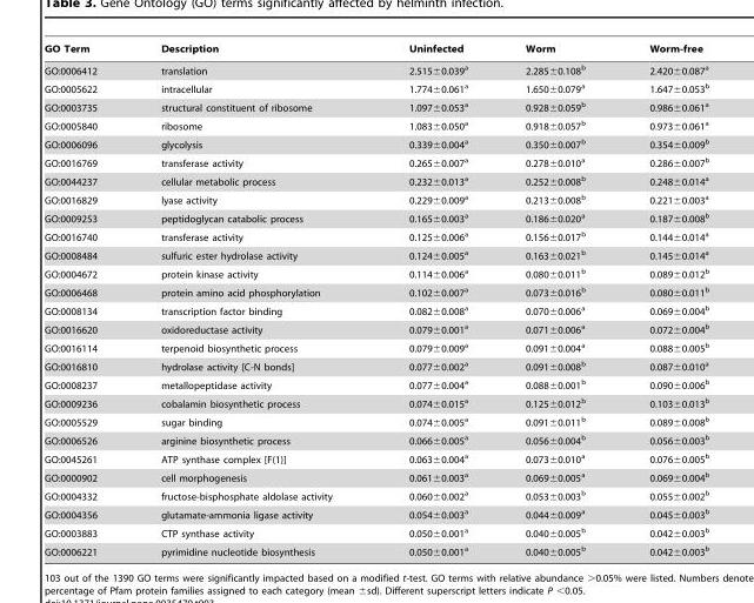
<table><thead><tr><td>GO Term</td><td>Description</td><td>Uninfected</td><td>Worm</td><td>Worm-free</td></tr></thead><tbody><tr><td>GO:0006412</td><td>translation</td><td>2.515±0.039<sup>a</sup></td><td>2.285±0.108<sup>b</sup></td><td>2.420±0.087<sup>a</sup></td></tr><tr><td>GO:0005622</td><td>intracellular</td><td>1.774±0.061<sup>a</sup></td><td>1.650±0.079<sup>a</sup></td><td>1.647±0.053<sup>b</sup></td></tr><tr><td>GO:0003735</td><td>structural constituent of ribosome</td><td>1.097±0.053<sup>a</sup></td><td>0.928±0.059<sup>b</sup></td><td>0.986±0.061<sup>a</sup></td></tr><tr><td>GO:0005840</td><td>ribosome</td><td>1.083±0.050<sup>a</sup></td><td>0.918±0.057<sup>b</sup></td><td>0.973±0.061<sup>a</sup></td></tr><tr><td>GO:0006096</td><td>glycolysis</td><td>0.339±0.004<sup>a</sup></td><td>0.350±0.007<sup>b</sup></td><td>0.354±0.009<sup>b</sup></td></tr><tr><td>GO:0016769</td><td>transferase activity</td><td>0.265±0.007<sup>a</sup></td><td>0.278±0.010<sup>a</sup></td><td>0.286±0.007<sup>b</sup></td></tr><tr><td>GO:0044237</td><td>cellular metabolic process</td><td>0.232±0.013<sup>a</sup></td><td>0.252±0.008<sup>b</sup></td><td>0.248±0.014<sup>a</sup></td></tr><tr><td>GO:0016829</td><td>lyase activity</td><td>0.229±0.009<sup>a</sup></td><td>0.213±0.008<sup>b</sup></td><td>0.221±0.003<sup>a</sup></td></tr><tr><td>GO:0009253</td><td>peptidoglycan catabolic process</td><td>0.165±0.003<sup>a</sup></td><td>0.186±0.020<sup>a</sup></td><td>0.187±0.008<sup>b</sup></td></tr><tr><td>GO:0016740</td><td>transferase activity</td><td>0.125±0.006<sup>a</sup></td><td>0.156±0.017<sup>b</sup></td><td>0.144±0.014<sup>a</sup></td></tr><tr><td>GO:0008484</td><td>sulfuric ester hydrolase activity</td><td>0.124±0.005<sup>a</sup></td><td>0.163±0.021<sup>b</sup></td><td>0.145±0.014<sup>a</sup></td></tr><tr><td>GO:0004672</td><td>protein kinase activity</td><td>0.114±0.006<sup>a</sup></td><td>0.080±0.011<sup>b</sup></td><td>0.089±0.012<sup>b</sup></td></tr><tr><td>GO:0006468</td><td>protein amino acid phosphorylation</td><td>0.102±0.007<sup>a</sup></td><td>0.073±0.016<sup>b</sup></td><td>0.080±0.011<sup>b</sup></td></tr><tr><td>GO:0008134</td><td>transcription factor binding</td><td>0.082±0.008<sup>a</sup></td><td>0.070±0.006<sup>a</sup></td><td>0.069±0.004<sup>b</sup></td></tr><tr><td>GO:0016620</td><td>oxidoreductase activity</td><td>0.079±0.001<sup>a</sup></td><td>0.071±0.006<sup>a</sup></td><td>0.072±0.004<sup>b</sup></td></tr><tr><td>GO:0016114</td><td>terpenoid biosynthetic process</td><td>0.079±0.009<sup>a</sup></td><td>0.091±0.004<sup>a</sup></td><td>0.088±0.005<sup>b</sup></td></tr><tr><td>GO:0016810</td><td>hydrolase activity [C-N bonds]</td><td>0.077±0.002<sup>a</sup></td><td>0.091±0.008<sup>b</sup></td><td>0.087±0.010<sup>a</sup></td></tr><tr><td>GO:0008237</td><td>metallopeptidase activity</td><td>0.077±0.004<sup>a</sup></td><td>0.088±0.001<sup>b</sup></td><td>0.090±0.006<sup>b</sup></td></tr><tr><td>GO:0009236</td><td>cobalamin biosynthetic process</td><td>0.074±0.015<sup>a</sup></td><td>0.125±0.012<sup>b</sup></td><td>0.103±0.013<sup>b</sup></td></tr><tr><td>GO:0005529</td><td>sugar binding</td><td>0.074±0.005<sup>a</sup></td><td>0.091±0.011<sup>b</sup></td><td>0.089±0.008<sup>b</sup></td></tr><tr><td>GO:0006526</td><td>arginine biosynthetic process</td><td>0.066±0.005<sup>a</sup></td><td>0.056±0.004<sup>b</sup></td><td>0.056±0.003<sup>b</sup></td></tr><tr><td>GO:0045261</td><td>ATP synthase complex [F(1)]</td><td>0.063±0.004<sup>a</sup></td><td>0.073±0.010<sup>a</sup></td><td>0.076±0.005<sup>b</sup></td></tr><tr><td>GO:0000902</td><td>cell morphogenesis</td><td>0.061±0.003<sup>a</sup></td><td>0.069±0.005<sup>a</sup></td><td>0.069±0.004<sup>b</sup></td></tr><tr><td>GO:0004332</td><td>fructose-bisphosphate aldolase activity</td><td>0.060±0.002<sup>a</sup></td><td>0.053±0.003<sup>b</sup></td><td>0.055±0.002<sup>b</sup></td></tr><tr><td>GO:0004356</td><td>glutamate-ammonia ligase activity</td><td>0.054±0.003<sup>a</sup></td><td>0.044±0.009<sup>a</sup></td><td>0.045±0.003<sup>b</sup></td></tr><tr><td>GO:0003883</td><td>CTP synthase activity</td><td>0.050±0.001<sup>a</sup></td><td>0.040±0.005<sup>b</sup></td><td>0.042±0.003<sup>b</sup></td></tr><tr><td>GO:0006221</td><td>pyrimidine nucleotide biosynthesis</td><td>0.050±0.001<sup>a</sup></td><td>0.040±0.005<sup>b</sup></td><td>0.042±0.003<sup>b</sup></td></tr></tbody></table>